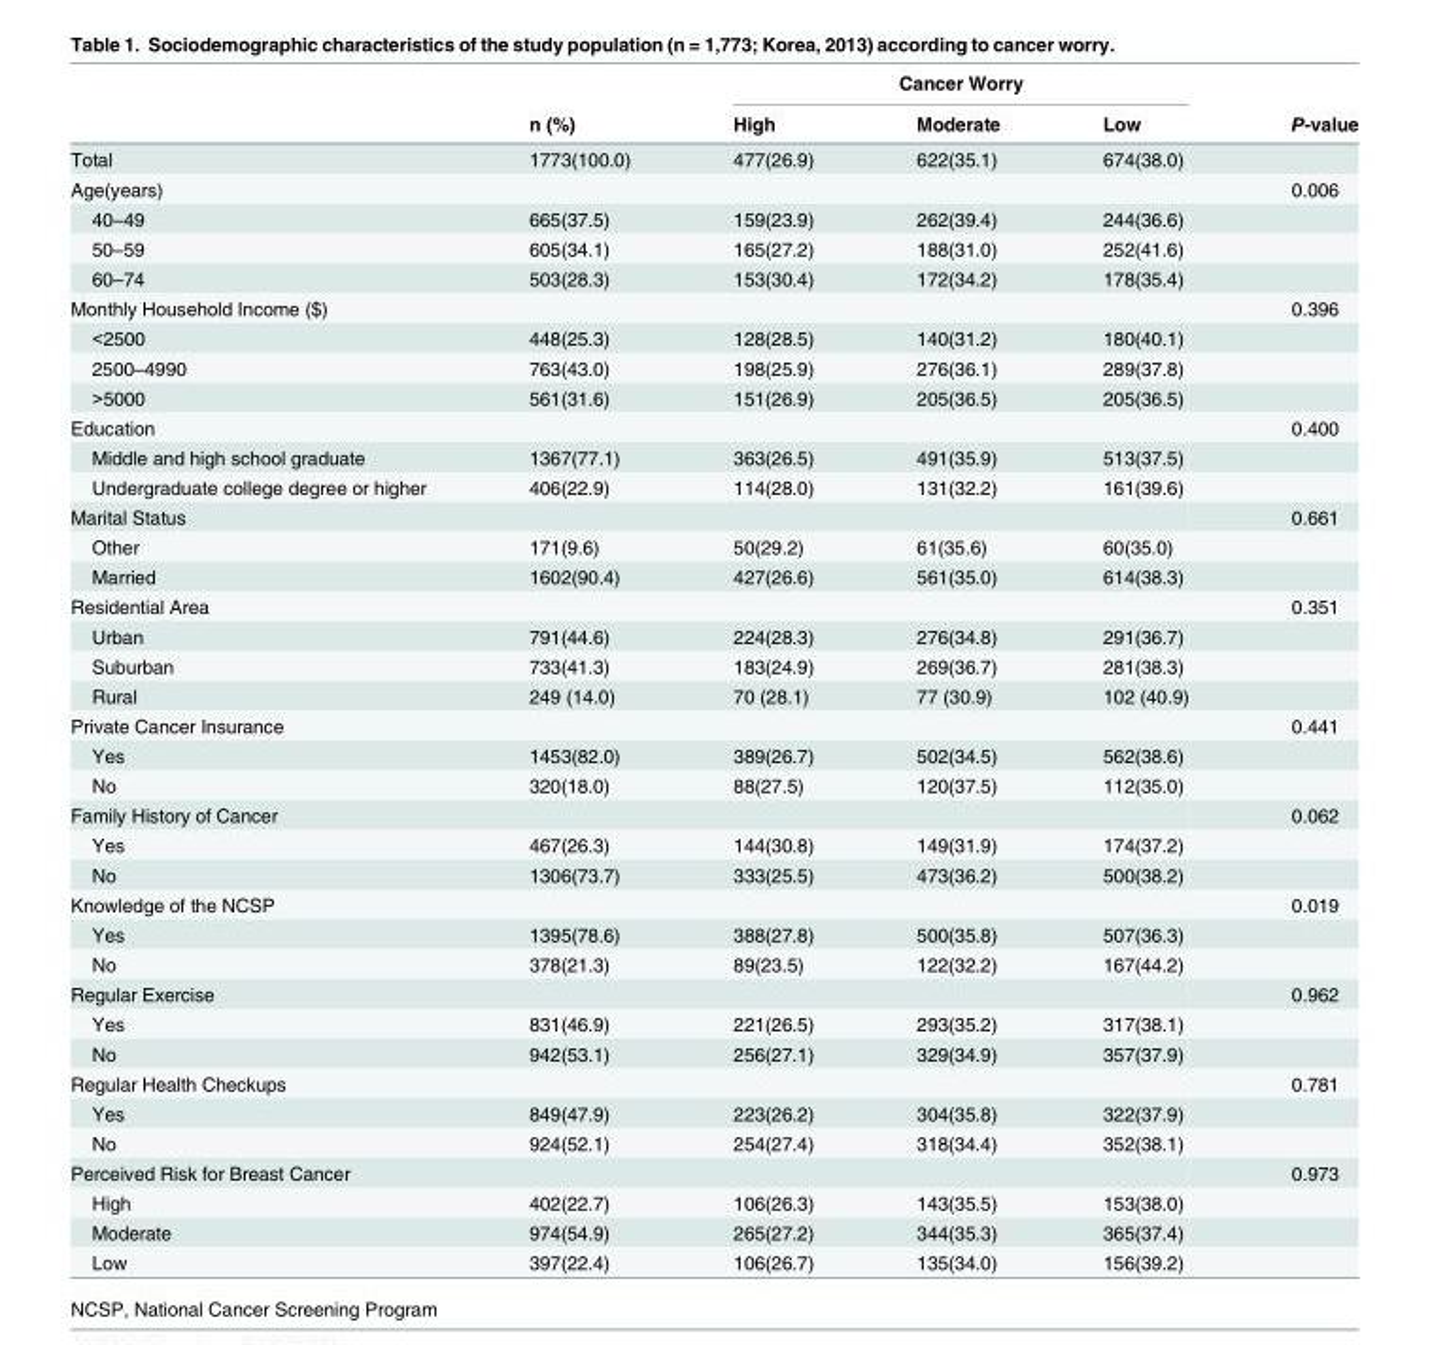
<table><thead><tr><td rowspan="2"></td><td rowspan="2">n (%)</td><td colspan="3">Cancer Worry</td><td rowspan="2">P-value</td></tr><tr><td>High</td><td>Moderate</td><td>Low</td></tr></thead><tbody><tr><td>Total</td><td>1773(100.0)</td><td>477(26.9)</td><td>622(35.1)</td><td>674(38.0)</td><td></td></tr><tr><td>Age(years)</td><td></td><td></td><td></td><td></td><td>0.006</td></tr><tr><td>40–49</td><td>665(37.5)</td><td>159(23.9)</td><td>262(39.4)</td><td>244(36.6)</td><td></td></tr><tr><td>50–59</td><td>605(34.1)</td><td>165(27.2)</td><td>188(31.0)</td><td>252(41.6)</td><td></td></tr><tr><td>60–74</td><td>503(28.3)</td><td>153(30.4)</td><td>172(34.2)</td><td>178(35.4)</td><td></td></tr><tr><td colspan="2">Monthly Household Income ($)</td><td></td><td></td><td></td><td>0.396</td></tr><tr><td>&lt;2500</td><td>448(25.3)</td><td>128(28.5)</td><td>140(31.2)</td><td>180(40.1)</td><td></td></tr><tr><td>2500–4990</td><td>763(43.0)</td><td>198(25.9)</td><td>276(36.1)</td><td>289(37.8)</td><td></td></tr><tr><td>&gt;5000</td><td>561(31.6)</td><td>151(26.9)</td><td>205(36.5)</td><td>205(36.5)</td><td></td></tr><tr><td>Education</td><td></td><td></td><td></td><td></td><td>0.400</td></tr><tr><td>Middle and high school graduate</td><td>1367(77.1)</td><td>363(26.5)</td><td>491(35.9)</td><td>513(37.5)</td><td></td></tr><tr><td>Undergraduate college degree or higher</td><td>406(22.9)</td><td>114(28.0)</td><td>131(32.2)</td><td>161(39.6)</td><td></td></tr><tr><td>Marital Status</td><td></td><td></td><td></td><td></td><td>0.661</td></tr><tr><td>Other</td><td>171(9.6)</td><td>50(29.2)</td><td>61(35.6)</td><td>60(35.0)</td><td></td></tr><tr><td>Married</td><td>1602(90.4)</td><td>427(26.6)</td><td>561(35.0)</td><td>614(38.3)</td><td></td></tr><tr><td>Residential Area</td><td></td><td></td><td></td><td></td><td>0.351</td></tr><tr><td>Urban</td><td>791(44.6)</td><td>224(28.3)</td><td>276(34.8)</td><td>291(36.7)</td><td></td></tr><tr><td>Suburban</td><td>733(41.3)</td><td>183(24.9)</td><td>269(36.7)</td><td>281(38.3)</td><td></td></tr><tr><td>Rural</td><td>249 (14.0)</td><td>70 (28.1)</td><td>77 (30.9)</td><td>102 (40.9)</td><td></td></tr><tr><td colspan="2">Private Cancer Insurance</td><td></td><td></td><td></td><td>0.441</td></tr><tr><td>Yes</td><td>1453(82.0)</td><td>389(26.7)</td><td>502(34.5)</td><td>562(38.6)</td><td></td></tr><tr><td>No</td><td>320(18.0)</td><td>88(27.5)</td><td>120(37.5)</td><td>112(35.0)</td><td></td></tr><tr><td colspan="2">Family History of Cancer</td><td></td><td></td><td></td><td>0.062</td></tr><tr><td>Yes</td><td>467(26.3)</td><td>144(30.8)</td><td>149(31.9)</td><td>174(37.2)</td><td></td></tr><tr><td>No</td><td>1306(73.7)</td><td>333(25.5)</td><td>473(36.2)</td><td>500(38.2)</td><td></td></tr><tr><td>Knowledge of the NCSP</td><td></td><td></td><td></td><td></td><td>0.019</td></tr><tr><td>Yes</td><td>1395(78.6)</td><td>388(27.8)</td><td>500(35.8)</td><td>507(36.3)</td><td></td></tr><tr><td>No</td><td>378(21.3)</td><td>89(23.5)</td><td>122(32.2)</td><td>167(44.2)</td><td></td></tr><tr><td>Regular Exercise</td><td></td><td></td><td></td><td></td><td>0.962</td></tr><tr><td>Yes</td><td>831(46.9)</td><td>221(26.5)</td><td>293(35.2)</td><td>317(38.1)</td><td></td></tr><tr><td>No</td><td>942(53.1)</td><td>256(27.1)</td><td>329(34.9)</td><td>357(37.9)</td><td></td></tr><tr><td>Regular Health Checkups</td><td></td><td></td><td></td><td></td><td>0.781</td></tr><tr><td>Yes</td><td>849(47.9)</td><td>223(26.2)</td><td>304(35.8)</td><td>322(37.9)</td><td></td></tr><tr><td>No</td><td>924(52.1)</td><td>254(27.4)</td><td>318(34.4)</td><td>352(38.1)</td><td></td></tr><tr><td colspan="2">Perceived Risk for Breast Cancer</td><td></td><td></td><td></td><td>0.973</td></tr><tr><td>High</td><td>402(22.7)</td><td>106(26.3)</td><td>143(35.5)</td><td>153(38.0)</td><td></td></tr><tr><td>Moderate</td><td>974(54.9)</td><td>265(27.2)</td><td>344(35.3)</td><td>365(37.4)</td><td></td></tr><tr><td>Low</td><td>397(22.4)</td><td>106(26.7)</td><td>135(34.0)</td><td>156(39.2)</td><td></td></tr></tbody></table>